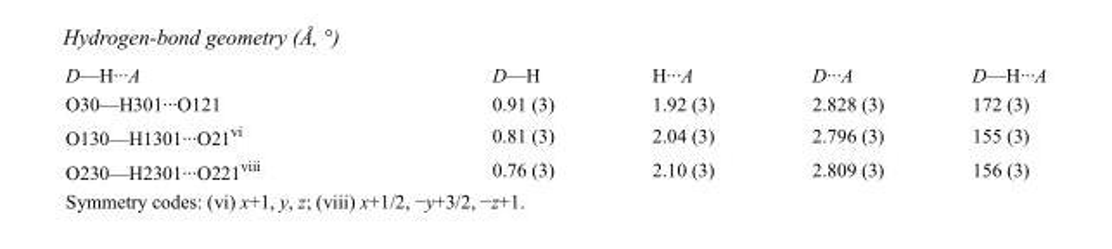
<table><tbody><tr><td>D—H···A</td><td>D—H</td><td>H···A</td><td>D···A</td><td>D—H···A</td></tr><tr><td>O30—H301···O121</td><td>0.91 (3)</td><td>1.92 (3)</td><td>2.828 (3)</td><td>172 (3)</td></tr><tr><td>O130—H1301···O21<sup>vi</sup></td><td>0.81 (3)</td><td>2.04 (3)</td><td>2.796 (3)</td><td>155 (3)</td></tr><tr><td>O230—H2301···O221<sup>viii</sup></td><td>0.76 (3)</td><td>2.10 (3)</td><td>2.809 (3)</td><td>156 (3)</td></tr></tbody></table>